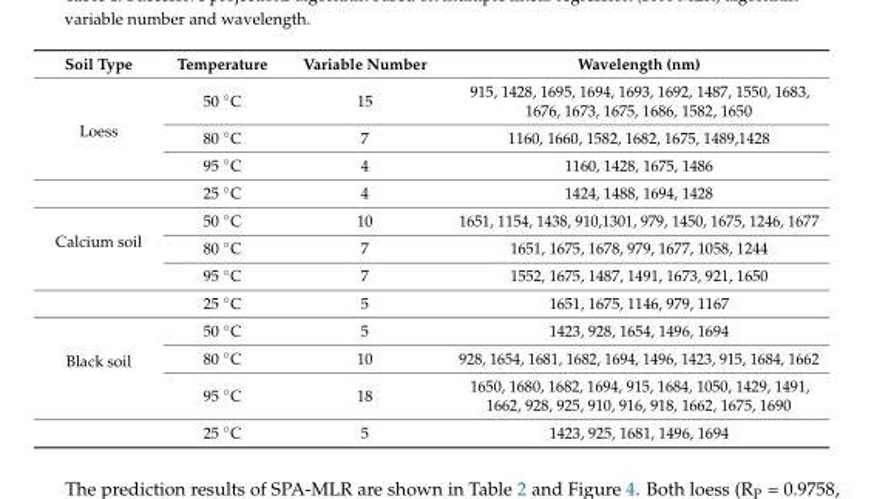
<table><thead><tr><td>Soil Type</td><td>Temperature</td><td>Variable Number</td><td>Wavelength (nm)</td></tr></thead><tbody><tr><td rowspan="4">Loess</td><td>50 ◦C</td><td>15</td><td>915, 1428, 1695, 1694, 1693, 1692, 1487, 1550, 1683, 1676, 1673, 1675, 1686, 1582, 1650</td></tr><tr><td>80 ◦C</td><td>7</td><td>1160, 1660, 1582, 1682, 1675, 1489,1428</td></tr><tr><td>95 ◦C</td><td>4</td><td>1160, 1428, 1675, 1486</td></tr><tr><td>25 ◦C</td><td>4</td><td>1424, 1488, 1694, 1428</td></tr><tr><td rowspan="4">Calcium soil</td><td>50 ◦C</td><td>10</td><td>1651, 1154, 1438, 910,1301, 979, 1450, 1675, 1246, 1677</td></tr><tr><td>80 ◦C</td><td>7</td><td>1651, 1675, 1678, 979, 1677, 1058, 1244</td></tr><tr><td>95 ◦C</td><td>7</td><td>1552, 1675, 1487, 1491, 1673, 921, 1650</td></tr><tr><td>25 ◦C</td><td>5</td><td>1651, 1675, 1146, 979, 1167</td></tr><tr><td rowspan="4">Black soil</td><td>50 ◦C</td><td>5</td><td>1423, 928, 1654, 1496, 1694</td></tr><tr><td>80 ◦C</td><td>10</td><td>928, 1654, 1681, 1682, 1694, 1496, 1423, 915, 1684, 1662</td></tr><tr><td>95 ◦C</td><td>18</td><td>1650, 1680, 1682, 1694, 915, 1684, 1050, 1429, 1491, 1662, 928, 925, 910, 916, 918, 1662, 1675, 1690</td></tr><tr><td>25 ◦C</td><td>5</td><td>1423, 925, 1681, 1496, 1694</td></tr></tbody></table>